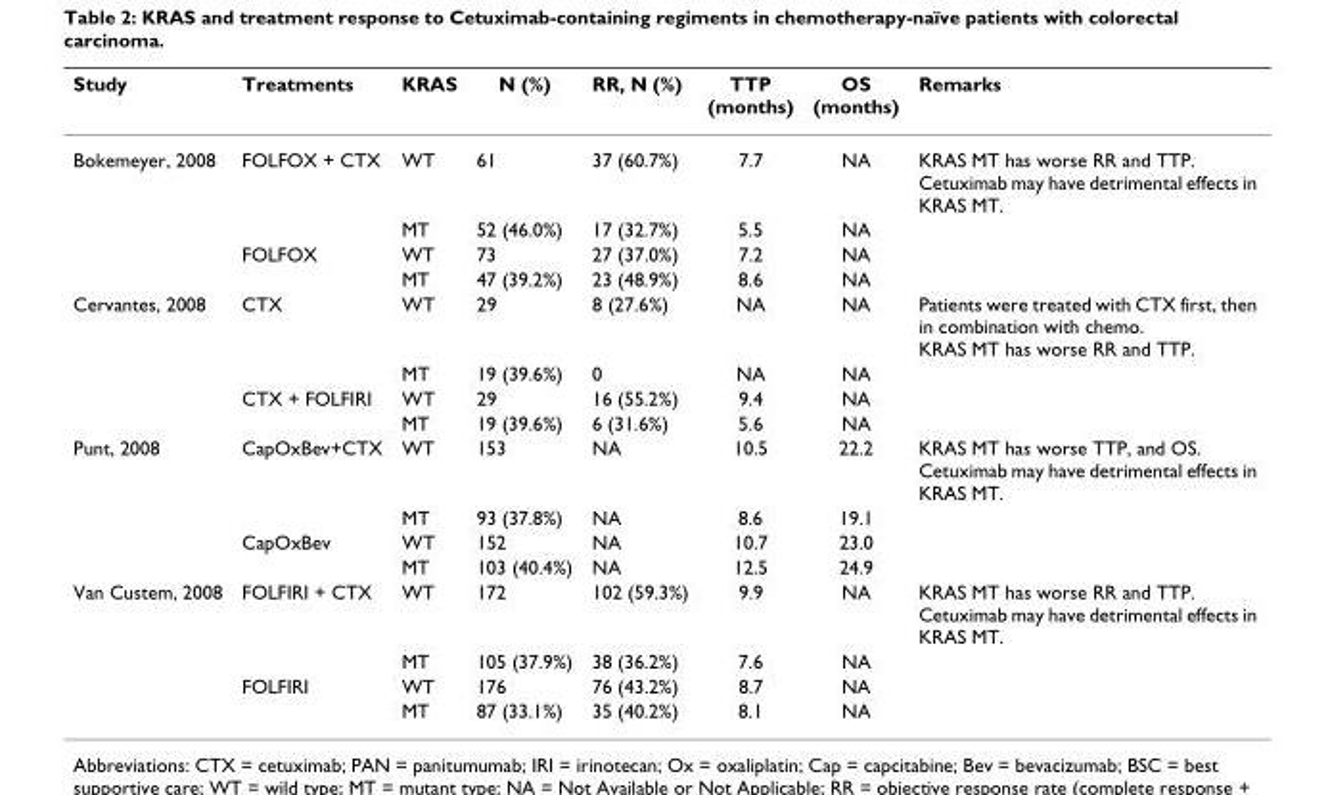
<table><thead><tr><td>Study</td><td>Treatments</td><td>KRAS</td><td>N (%)</td><td>RR, N (%)</td><td>TTP (months)</td><td>OS (months)</td><td>Remarks</td></tr></thead><tbody><tr><td rowspan="4">Bokemeyer, 2008</td><td>FOLFOX + CTX</td><td>WT</td><td>61</td><td>37 (60.7%)</td><td>7.7</td><td>NA</td><td>KRAS MT has worse RR and TTP. Cetuximab may have detrimental effects in KRAS MT.</td></tr><tr><td></td><td>MT</td><td>52 (46.0%)</td><td>17 (32.7%)</td><td>5.5</td><td>NA</td><td></td></tr><tr><td>FOLFOX</td><td>WT</td><td>73</td><td>27 (37.0%)</td><td>7.2</td><td>NA</td><td></td></tr><tr><td></td><td>MT</td><td>47 (39.2%)</td><td>23 (48.9%)</td><td>8.6</td><td>NA</td><td></td></tr><tr><td rowspan="4">Cervantes, 2008</td><td>CTX</td><td>WT</td><td>29</td><td>8 (27.6%)</td><td>NA</td><td>NA</td><td>Patients were treated with CTX first, then in combination with chemo. KRAS MT has worse RR and TTP.</td></tr><tr><td></td><td>MT</td><td>19 (39.6%)</td><td>0</td><td>NA</td><td>NA</td><td></td></tr><tr><td>CTX + FOLFIRI</td><td>WT</td><td>29</td><td>16 (55.2%)</td><td>9.4</td><td>NA</td><td></td></tr><tr><td></td><td>MT</td><td>19 (39.6%)</td><td>6 (31.6%)</td><td>5.6</td><td>NA</td><td></td></tr><tr><td rowspan="4">Punt, 2008</td><td>CapOxBev+CTX</td><td>WT</td><td>153</td><td>NA</td><td>10.5</td><td>22.2</td><td>KRAS MT has worse TTP, and OS. Cetuximab may have detrimental effects in KRAS MT.</td></tr><tr><td></td><td>MT</td><td>93 (37.8%)</td><td>NA</td><td>8.6</td><td>19.1</td><td></td></tr><tr><td>CapOxBev</td><td>WT</td><td>152</td><td>NA</td><td>10.7</td><td>23.0</td><td></td></tr><tr><td></td><td>MT</td><td>103 (40.4%)</td><td>NA</td><td>12.5</td><td>24.9</td><td></td></tr><tr><td rowspan="4">Van Custem, 2008</td><td>FOLFIRI + CTX</td><td>WT</td><td>172</td><td>102 (59.3%)</td><td>9.9</td><td>NA</td><td>KRAS MT has worse RR and TTP. Cetuximab may have detrimental effects in KRAS MT.</td></tr><tr><td></td><td>MT</td><td>105 (37.9%)</td><td>38 (36.2%)</td><td>7.6</td><td>NA</td><td></td></tr><tr><td>FOLFIRI</td><td>WT</td><td>176</td><td>76 (43.2%)</td><td>8.7</td><td>NA</td><td></td></tr><tr><td></td><td>MT</td><td>87 (33.1%)</td><td>35 (40.2%)</td><td>8.1</td><td>NA</td><td></td></tr></tbody></table>